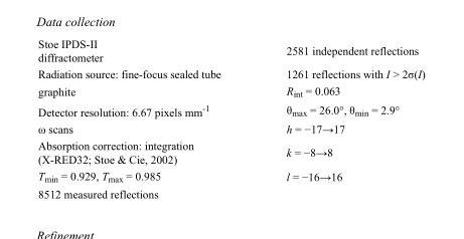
<table><tbody><tr><td>Stoe IPDS-II diffractometer</td><td>2581 independent reflections</td></tr><tr><td>Radiation source: fine-focus sealed tube</td><td>1261 reflections with I &gt; 2σ(I)</td></tr><tr><td>graphite</td><td>R<sub>int</sub> = 0.063</td></tr><tr><td>Detector resolution: 6.67 pixels mm<sup>-1</sup></td><td>θ<sub>max</sub> = 26.0°, θ<sub>min</sub> = 2.9°</td></tr><tr><td>ω scans</td><td>h = −17→17</td></tr><tr><td>Absorption correction: integration (X-RED32; Stoe &amp; Cie, 2002)</td><td>k = −8→8</td></tr><tr><td>T<sub>min</sub> = 0.929, T<sub>max</sub> = 0.985</td><td>l = −16→16</td></tr><tr><td>8512 measured reflections</td><td></td></tr></tbody></table>